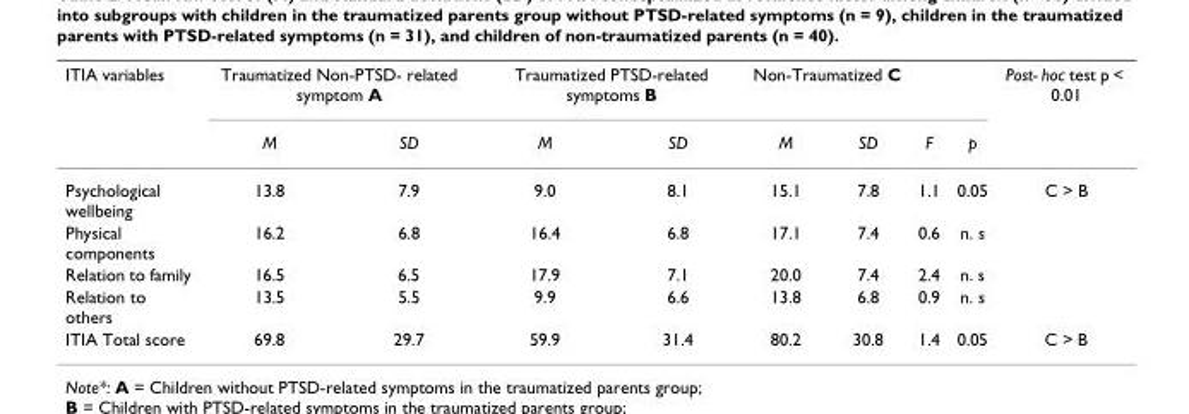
<table><thead><tr><td rowspan="2">ITIA variables</td><td colspan="2">Traumatized Non-PTSD- related symptom A</td><td colspan="2">Traumatized PTSD-related symptoms B</td><td colspan="2">Non-Traumatized C</td><td rowspan="2">F</td><td rowspan="2">p</td><td rowspan="2">Post- hoc test p &lt; 0.01</td></tr><tr><td>M</td><td>SD</td><td>M</td><td>SD</td><td>M</td><td>SD</td></tr></thead><tbody><tr><td>Psychological wellbeing</td><td>13.8</td><td>7.9</td><td>9.0</td><td>8.1</td><td>15.1</td><td>7.8</td><td>1.1</td><td>0.05</td><td>C &gt; B</td></tr><tr><td>Physical components</td><td>16.2</td><td>6.8</td><td>16.4</td><td>6.8</td><td>17.1</td><td>7.4</td><td>0.6</td><td>n. s</td><td></td></tr><tr><td>Relation to family</td><td>16.5</td><td>6.5</td><td>17.9</td><td>7.1</td><td>20.0</td><td>7.4</td><td>2.4</td><td>n. s</td><td></td></tr><tr><td>Relation to others</td><td>13.5</td><td>5.5</td><td>9.9</td><td>6.6</td><td>13.8</td><td>6.8</td><td>0.9</td><td>n. s</td><td></td></tr><tr><td>ITIA Total score</td><td>69.8</td><td>29.7</td><td>59.9</td><td>31.4</td><td>80.2</td><td>30.8</td><td>1.4</td><td>0.05</td><td>C &gt; B</td></tr></tbody></table>